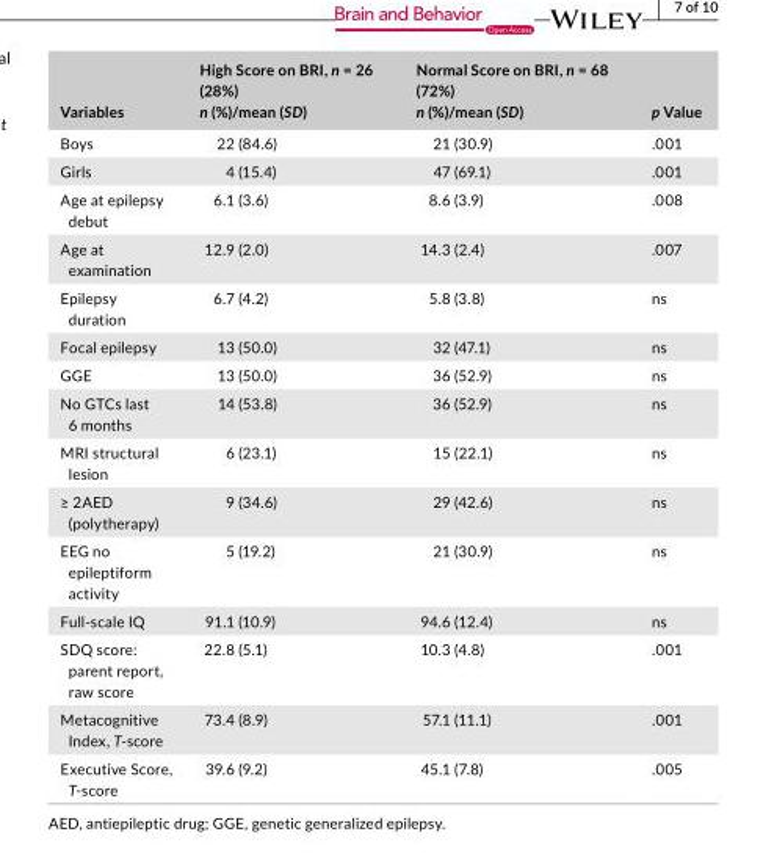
<table><thead><tr><td>Variables</td><td>High Score on BRI, n = 26 (28%) n (%)/mean (SD)</td><td>Normal Score on BRI, n = 68 (72%) n (%)/mean (SD)</td><td>p Value</td></tr></thead><tbody><tr><td>Boys</td><td>22 (84.6)</td><td>21 (30.9)</td><td>.001</td></tr><tr><td>Girls</td><td>4 (15.4)</td><td>47 (69.1)</td><td>.001</td></tr><tr><td>Age at epilepsy debut</td><td>6.1 (3.6)</td><td>8.6 (3.9)</td><td>.008</td></tr><tr><td>Age at examination</td><td>12.9 (2.0)</td><td>14.3 (2.4)</td><td>.007</td></tr><tr><td>Epilepsy duration</td><td>6.7 (4.2)</td><td>5.8 (3.8)</td><td>ns</td></tr><tr><td>Focal epilepsy</td><td>13 (50.0)</td><td>32 (47.1)</td><td>ns</td></tr><tr><td>GGE</td><td>13 (50.0)</td><td>36 (52.9)</td><td>ns</td></tr><tr><td>No GTCs last 6 months</td><td>14 (53.8)</td><td>36 (52.9)</td><td>ns</td></tr><tr><td>MRI structural lesion</td><td>6 (23.1)</td><td>15 (22.1)</td><td>ns</td></tr><tr><td>≥ 2AED (polytherapy)</td><td>9 (34.6)</td><td>29 (42.6)</td><td>ns</td></tr><tr><td>EEG no epileptiform activity</td><td>5 (19.2)</td><td>21 (30.9)</td><td>ns</td></tr><tr><td>Full- scale IQ</td><td>91.1 (10.9)</td><td>94.6 (12.4)</td><td>ns</td></tr><tr><td>SDQ score: parent report, raw score</td><td>22.8 (5.1)</td><td>10.3 (4.8)</td><td>.001</td></tr><tr><td>Metacognitive Index, T- score</td><td>73.4 (8.9)</td><td>57.1 (11.1)</td><td>.001</td></tr><tr><td>Executive Score, T- score</td><td>39.6 (9.2)</td><td>45.1 (7.8)</td><td>.005</td></tr></tbody></table>